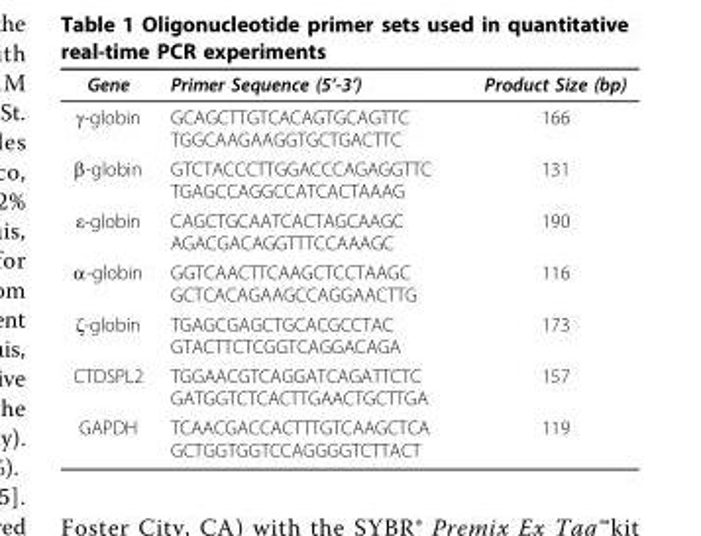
<table><thead><tr><td>Gene</td><td>Primer Sequence (5’-3’)</td><td>Product Size (bp)</td></tr></thead><tbody><tr><td>γ-globin</td><td>GCAGCTTGTCACAGTGCAGTTC TGGCAAGAAGGTGCTGACTTC</td><td>166</td></tr><tr><td>β-globin</td><td>GTCTACCCTTGGACCCAGAGGTTC TGAGCCAGGCCATCACTAAAG</td><td>131</td></tr><tr><td>ε-globin</td><td>CAGCTGCAATCACTAGCAAGC AGACGACAGGTTTCCAAAGC</td><td>190</td></tr><tr><td>α-globin</td><td>GGTCAACTTCAAGCTCCTAAGC GCTCACAGAAGCCAGGAACTTG</td><td>116</td></tr><tr><td>ζ-globin</td><td>TGAGCGAGCTGCACGCCTAC GTACTTCTCGGTCAGGACAGA</td><td>173</td></tr><tr><td>CTDSPL2</td><td>TGGAACGTCAGGATCAGATTCTC GATGGTCTCACTTGAACTGCTTGA</td><td>157</td></tr><tr><td>GAPDH</td><td>TCAACGACCACTTTGTCAAGCTCA GCTGGTGGTCCAGGGGTCTTACT</td><td>119</td></tr></tbody></table>